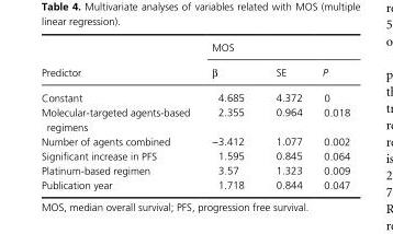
<table><thead><tr><td rowspan="2">Predictor</td><td colspan="3">MOS</td></tr><tr><td>β</td><td>SE</td><td>P</td></tr></thead><tbody><tr><td>Constant</td><td>4.685</td><td>4.372</td><td>0</td></tr><tr><td>Molecular- targeted agents- based regimens</td><td>2.355</td><td>0.964</td><td>0.018</td></tr><tr><td>Number of agents combined</td><td>−3.412</td><td>1.077</td><td>0.002</td></tr><tr><td>Significant increase in PFS</td><td>1.595</td><td>0.845</td><td>0.064</td></tr><tr><td>Platinum- based regimen</td><td>3.57</td><td>1.323</td><td>0.009</td></tr><tr><td>Publication year</td><td>1.718</td><td>0.844</td><td>0.047</td></tr></tbody></table>